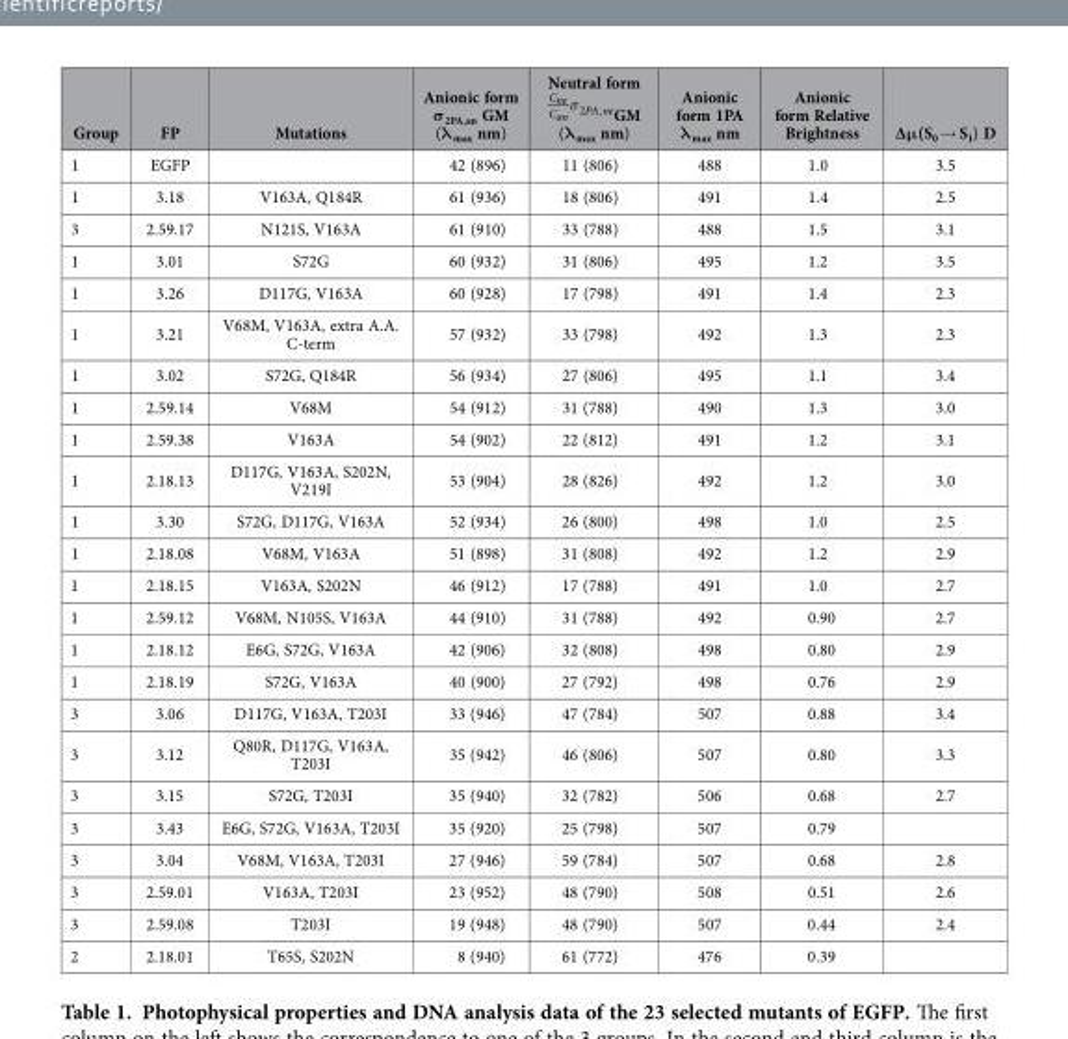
<table><thead><tr><td>Group</td><td>FP</td><td>Mutations</td><td>Anionic form σ <sub>2PA,an</sub> GM (λ <sub>max</sub> nm)</td><td>Neutral form σ , Cne Can PA ne 2 GM (λ max nm)</td><td>Anionic form 1PA λ <sub>max</sub> nm</td><td>Anionic form Relative Brightness</td><td>Δ µ (S<sub>0</sub> → S<sub>1</sub>) D</td></tr></thead><tbody><tr><td>1</td><td>EGFP</td><td></td><td>42 (896)</td><td>11 (806)</td><td>488</td><td>1.0</td><td>3.5</td></tr><tr><td>1</td><td>3.18</td><td>V163A, Q184R</td><td>61 (936)</td><td>18 (806)</td><td>491</td><td>1.4</td><td>2.5</td></tr><tr><td>3</td><td>2.59.17</td><td>N121S, V163A</td><td>61 (910)</td><td>33 (788)</td><td>488</td><td>1.5</td><td>3.1</td></tr><tr><td>1</td><td>3.01</td><td>S72G</td><td>60 (932)</td><td>31 (806)</td><td>495</td><td>1.2</td><td>3.5</td></tr><tr><td>1</td><td>3.26</td><td>D117G, V163A</td><td>60 (928)</td><td>17 (798)</td><td>491</td><td>1.4</td><td>2.3</td></tr><tr><td>1</td><td>3.21</td><td>V68M, V163A, extra A.A. C-term</td><td>57 (932)</td><td>33 (798)</td><td>492</td><td>1.3</td><td>2.3</td></tr><tr><td>1</td><td>3.02</td><td>S72G, Q184R</td><td>56 (934)</td><td>27 (806)</td><td>495</td><td>1.1</td><td>3.4</td></tr><tr><td>1</td><td>2.59.14</td><td>V68M</td><td>54 (912)</td><td>31 (788)</td><td>490</td><td>1.3</td><td>3.0</td></tr><tr><td>1</td><td>2.59.38</td><td>V163A</td><td>54 (902)</td><td>22 (812)</td><td>491</td><td>1.2</td><td>3.1</td></tr><tr><td>1</td><td>2.18.13</td><td>D117G, V163A, S202N, V219I</td><td>53 (904)</td><td>28 (826)</td><td>492</td><td>1.2</td><td>3.0</td></tr><tr><td>1</td><td>3.30</td><td>S72G, D117G, V163A</td><td>52 (934)</td><td>26 (800)</td><td>498</td><td>1.0</td><td>2.5</td></tr><tr><td>1</td><td>2.18.08</td><td>V68M, V163A</td><td>51 (898)</td><td>31 (808)</td><td>492</td><td>1.2</td><td>2.9</td></tr><tr><td>1</td><td>2.18.15</td><td>V163A, S202N</td><td>46 (912)</td><td>17 (788)</td><td>491</td><td>1.0</td><td>2.7</td></tr><tr><td>1</td><td>2.59.12</td><td>V68M, N105S, V163A</td><td>44 (910)</td><td>31 (788)</td><td>492</td><td>0.90</td><td>2.7</td></tr><tr><td>1</td><td>2.18.12</td><td>E6G, S72G, V163A</td><td>42 (906)</td><td>32 (808)</td><td>498</td><td>0.80</td><td>2.9</td></tr><tr><td>1</td><td>2.18.19</td><td>S72G, V163A</td><td>40 (900)</td><td>27 (792)</td><td>498</td><td>0.76</td><td>2.9</td></tr><tr><td>3</td><td>3.06</td><td>D117G, V163A, T203I</td><td>33 (946)</td><td>47 (784)</td><td>507</td><td>0.88</td><td>3.4</td></tr><tr><td>3</td><td>3.12</td><td>Q80R, D117G, V163A, T203I</td><td>35 (942)</td><td>46 (806)</td><td>507</td><td>0.80</td><td>3.3</td></tr><tr><td>3</td><td>3.15</td><td>S72G, T203I</td><td>35 (940)</td><td>32 (782)</td><td>506</td><td>0.68</td><td>2.7</td></tr><tr><td>3</td><td>3.43</td><td>E6G, S72G, V163A, T203I</td><td>35 (920)</td><td>25 (798)</td><td>507</td><td>0.79</td><td></td></tr><tr><td>3</td><td>3.04</td><td>V68M, V163A, T203I</td><td>27 (946)</td><td>59 (784)</td><td>507</td><td>0.68</td><td>2.8</td></tr><tr><td>3</td><td>2.59.01</td><td>V163A, T203I</td><td>23 (952)</td><td>48 (790)</td><td>508</td><td>0.51</td><td>2.6</td></tr><tr><td>3</td><td>2.59.08</td><td>T203I</td><td>19 (948)</td><td>48 (790)</td><td>507</td><td>0.44</td><td>2.4</td></tr><tr><td>2</td><td>2.18.01</td><td>T65S, S202N</td><td>8 (940)</td><td>61 (772)</td><td>476</td><td>0.39</td><td></td></tr></tbody></table>